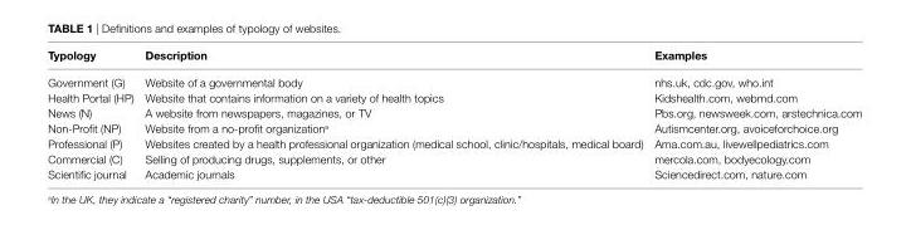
<table><thead><tr><td>Typology</td><td>Description</td><td>examples</td></tr></thead><tbody><tr><td>Government (G)</td><td>Website of a governmental body</td><td>nhs.uk, cdc.gov, who.int</td></tr><tr><td>Health Portal (HP)</td><td>Website that contains information on a variety of health topics</td><td>Kidshealth.com, webmd.com</td></tr><tr><td>News (N)</td><td>A website from newspapers, magazines, or TV</td><td>Pbs.org, newsweek.com, arstechnica.com</td></tr><tr><td>Non-Profit (NP)</td><td>Website from a no-profit organization<sup>a</sup></td><td>Autismcenter.org, avoiceforchoice.org</td></tr><tr><td>Professional (P)</td><td>Websites created by a health professional organization (medical school, clinic/hospitals, medical board)</td><td>Ama.com.au, livewellpediatrics.com</td></tr><tr><td>Commercial (C)</td><td>Selling of producing drugs, supplements, or other</td><td>mercola.com, bodyecology.com</td></tr><tr><td>Scientific journal</td><td>Academic journals</td><td>Sciencedirect.com, nature.com</td></tr></tbody></table>